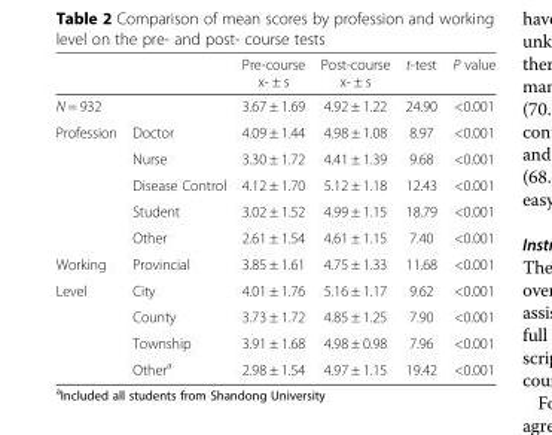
<table><thead><tr><td></td><td></td><td>Pre-course x- ± s</td><td>Post-course x- ± s</td><td>t-test</td><td>P value</td></tr></thead><tbody><tr><td colspan="2">N = 932</td><td>3.67 ± 1.69</td><td>4.92 ± 1.22</td><td>24.90</td><td>&lt;0.001</td></tr><tr><td rowspan="5">Profession</td><td>Doctor</td><td>4.09 ± 1.44</td><td>4.98 ± 1.08</td><td>8.97</td><td>&lt;0.001</td></tr><tr><td>Nurse</td><td>3.30 ± 1.72</td><td>4.41 ± 1.39</td><td>9.68</td><td>&lt;0.001</td></tr><tr><td>Disease Control</td><td>4.12 ± 1.70</td><td>5.12 ± 1.18</td><td>12.43</td><td>&lt;0.001</td></tr><tr><td>Student</td><td>3.02 ± 1.52</td><td>4.99 ± 1.15</td><td>18.79</td><td>&lt;0.001</td></tr><tr><td>Other</td><td>2.61 ± 1.54</td><td>4.61 ± 1.15</td><td>7.40</td><td>&lt;0.001</td></tr><tr><td>Working</td><td>Provincial</td><td>3.85 ± 1.61</td><td>4.75 ± 1.33</td><td>11.68</td><td>&lt;0.001</td></tr><tr><td rowspan="4">Level</td><td>City</td><td>4.01 ± 1.76</td><td>5.16 ± 1.17</td><td>9.62</td><td>&lt;0.001</td></tr><tr><td>County</td><td>3.73 ± 1.72</td><td>4.85 ± 1.25</td><td>7.90</td><td>&lt;0.001</td></tr><tr><td>Township</td><td>3.91 ± 1.68</td><td>4.98 ± 0.98</td><td>7.96</td><td>&lt;0.001</td></tr><tr><td>Other<sup>a</sup></td><td>2.98 ± 1.54</td><td>4.97 ± 1.15</td><td>19.42</td><td>&lt;0.001</td></tr></tbody></table>